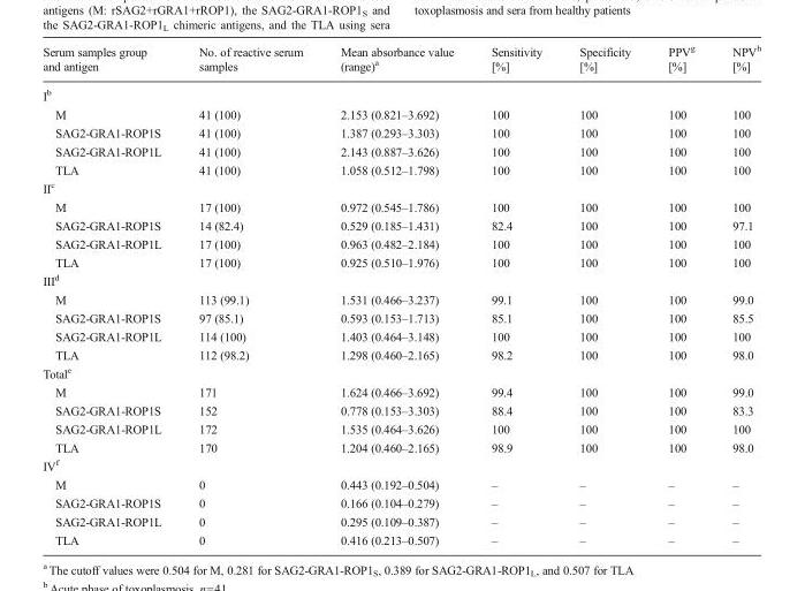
<table><thead><tr><td>Serum samples group and antigen</td><td>No. of reactive serum samples</td><td>Mean absorbance value (range)<sup>a</sup></td><td>Sensitivity [%]</td><td>Specificity [%]</td><td>PPV<sup>g</sup> [%]</td><td>NPV<sup>h</sup> [%]</td></tr></thead><tbody><tr><td colspan="7">I<sup>b</sup></td></tr><tr><td>M</td><td>41 (100)</td><td>2.153 (0.821–3.692)</td><td>100</td><td>100</td><td>100</td><td>100</td></tr><tr><td>SAG2-GRA1-ROP1S</td><td>41 (100)</td><td>1.387 (0.293–3.303)</td><td>100</td><td>100</td><td>100</td><td>100</td></tr><tr><td>SAG2-GRA1-ROP1L</td><td>41 (100)</td><td>2.143 (0.887–3.626)</td><td>100</td><td>100</td><td>100</td><td>100</td></tr><tr><td>TLA</td><td>41 (100)</td><td>1.058 (0.512–1.798)</td><td>100</td><td>100</td><td>100</td><td>100</td></tr><tr><td colspan="7">II<sup>c</sup></td></tr><tr><td>M</td><td>17 (100)</td><td>0.972 (0.545–1.786)</td><td>100</td><td>100</td><td>100</td><td>100</td></tr><tr><td>SAG2-GRA1-ROP1S</td><td>14 (82.4)</td><td>0.529 (0.185–1.431)</td><td>82.4</td><td>100</td><td>100</td><td>97.1</td></tr><tr><td>SAG2-GRA1-ROP1L</td><td>17 (100)</td><td>0.963 (0.482–2.184)</td><td>100</td><td>100</td><td>100</td><td>100</td></tr><tr><td>TLA</td><td>17 (100)</td><td>0.925 (0.510–1.976)</td><td>100</td><td>100</td><td>100</td><td>100</td></tr><tr><td colspan="7">III<sup>d</sup></td></tr><tr><td>M</td><td>113 (99.1)</td><td>1.531 (0.466–3.237)</td><td>99.1</td><td>100</td><td>100</td><td>99.0</td></tr><tr><td>SAG2-GRA1-ROP1S</td><td>97 (85.1)</td><td>0.593 (0.153–1.713)</td><td>85.1</td><td>100</td><td>100</td><td>85.5</td></tr><tr><td>SAG2-GRA1-ROP1L</td><td>114 (100)</td><td>1.403 (0.464–3.148)</td><td>100</td><td>100</td><td>100</td><td>100</td></tr><tr><td>TLA</td><td>112 (98.2)</td><td>1.298 (0.460–2.165)</td><td>98.2</td><td>100</td><td>100</td><td>98.0</td></tr><tr><td colspan="7">Total<sup>e</sup></td></tr><tr><td>M</td><td>171</td><td>1.624 (0.466–3.692)</td><td>99.4</td><td>100</td><td>100</td><td>99.0</td></tr><tr><td>SAG2-GRA1-ROP1S</td><td>152</td><td>0.778 (0.153–3.303)</td><td>88.4</td><td>100</td><td>100</td><td>83.3</td></tr><tr><td>SAG2-GRA1-ROP1L</td><td>172</td><td>1.535 (0.464–3.626)</td><td>100</td><td>100</td><td>100</td><td>100</td></tr><tr><td>TLA</td><td>170</td><td>1.204 (0.460–2.165)</td><td>98.9</td><td>100</td><td>100</td><td>98.0</td></tr><tr><td colspan="7">IV<sup>f</sup></td></tr><tr><td>M</td><td>0</td><td>0.443 (0.192–0.504)</td><td>–</td><td>–</td><td>–</td><td>–</td></tr><tr><td>SAG2-GRA1-ROP1S</td><td>0</td><td>0.166 (0.104–0.279)</td><td>–</td><td>–</td><td>–</td><td>–</td></tr><tr><td>SAG2-GRA1-ROP1L</td><td>0</td><td>0.295 (0.109–0.387)</td><td>–</td><td>–</td><td>–</td><td>–</td></tr><tr><td>TLA</td><td>0</td><td>0.416 (0.213–0.507)</td><td>–</td><td>–</td><td>–</td><td>–</td></tr></tbody></table>